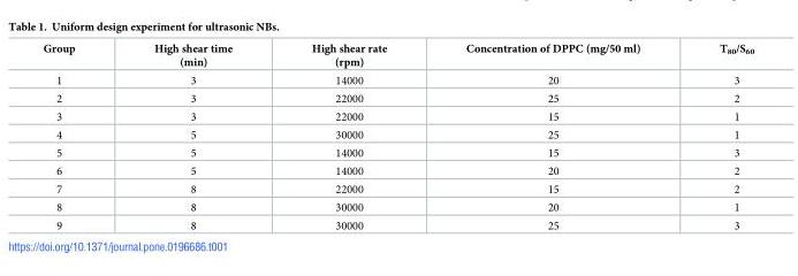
<table><thead><tr><td>Group</td><td>High shear time (min)</td><td>High shear rate (rpm)</td><td>Concentration of DPPC (mg/50 ml)</td><td>T<sub>80</sub>/S<sub>60</sub></td></tr></thead><tbody><tr><td>1</td><td>3</td><td>14000</td><td>20</td><td>3</td></tr><tr><td>2</td><td>3</td><td>22000</td><td>25</td><td>2</td></tr><tr><td>3</td><td>3</td><td>22000</td><td>15</td><td>1</td></tr><tr><td>4</td><td>5</td><td>30000</td><td>25</td><td>1</td></tr><tr><td>5</td><td>5</td><td>14000</td><td>15</td><td>3</td></tr><tr><td>6</td><td>5</td><td>14000</td><td>20</td><td>2</td></tr><tr><td>7</td><td>8</td><td>22000</td><td>15</td><td>2</td></tr><tr><td>8</td><td>8</td><td>30000</td><td>20</td><td>1</td></tr><tr><td>9</td><td>8</td><td>30000</td><td>25</td><td>3</td></tr></tbody></table>